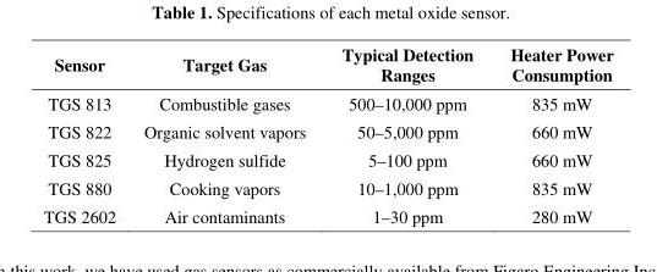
<table><thead><tr><td>Sensor</td><td>Target Gas</td><td>Typical Detection Ranges</td><td>Heater Power Consumption</td></tr></thead><tbody><tr><td>TGS 813</td><td>Combustible gases</td><td>500–10,000 ppm</td><td>835 mW</td></tr><tr><td>TGS 822</td><td>Organic solvent vapors</td><td>50–5,000 ppm</td><td>660 mW</td></tr><tr><td>TGS 825</td><td>Hydrogen sulfide</td><td>5–100 ppm</td><td>660 mW</td></tr><tr><td>TGS 880</td><td>Cooking vapors</td><td>10–1,000 ppm</td><td>835 mW</td></tr><tr><td>TGS 2602</td><td>Air contaminants</td><td>1–30 ppm</td><td>280 mW</td></tr></tbody></table>